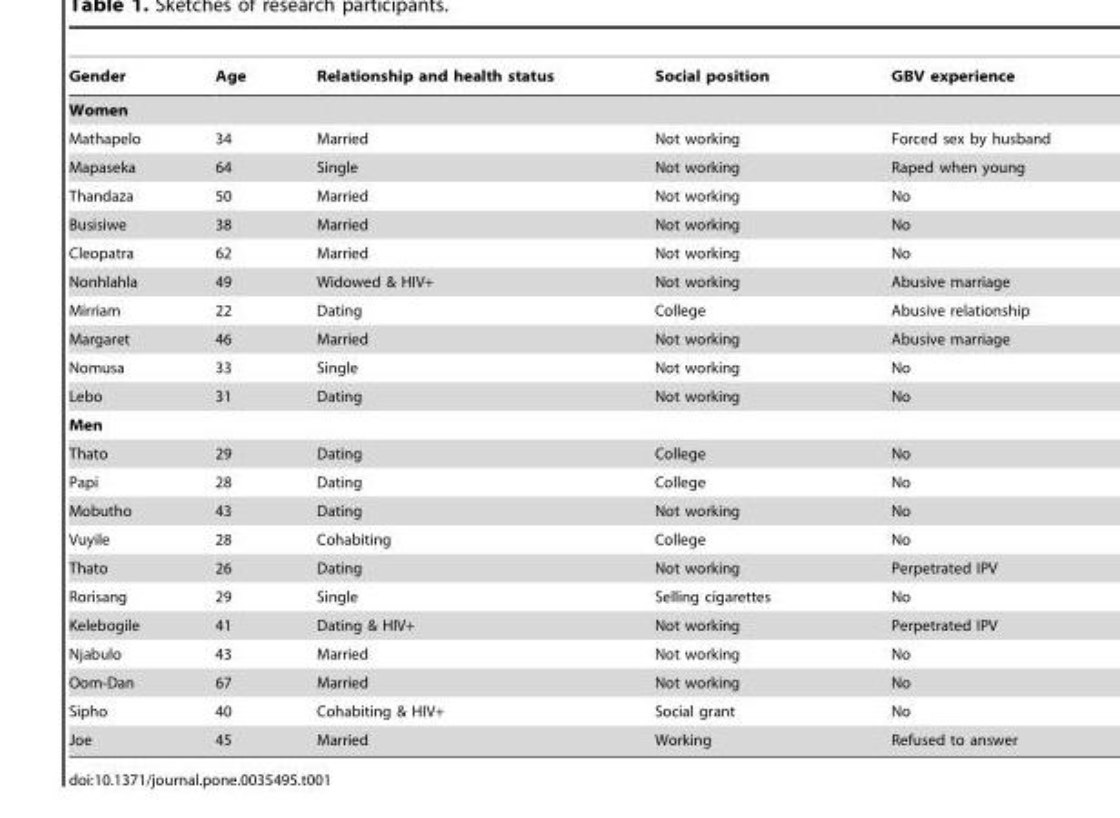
<table><thead><tr><td>Gender</td><td>Age</td><td>Relationship and health status</td><td>Social position</td><td>GBV experience</td></tr></thead><tbody><tr><td colspan="5">Women</td></tr><tr><td>Mathapelo</td><td>34</td><td>Married</td><td>Not working</td><td>Forced sex by husband</td></tr><tr><td>Mapaseka</td><td>64</td><td>Single</td><td>Not working</td><td>Raped when young</td></tr><tr><td>Thandaza</td><td>50</td><td>Married</td><td>Not working</td><td>No</td></tr><tr><td>Busisiwe</td><td>38</td><td>Married</td><td>Not working</td><td>No</td></tr><tr><td>Cleopatra</td><td>62</td><td>Married</td><td>Not working</td><td>No</td></tr><tr><td>Nonhlahla</td><td>49</td><td>Widowed &amp; HIV+</td><td>Not working</td><td>Abusive marriage</td></tr><tr><td>Mirriam</td><td>22</td><td>Dating</td><td>College</td><td>Abusive relationship</td></tr><tr><td>Margaret</td><td>46</td><td>Married</td><td>Not working</td><td>Abusive marriage</td></tr><tr><td>Nomusa</td><td>33</td><td>Single</td><td>Not working</td><td>No</td></tr><tr><td>Lebo</td><td>31</td><td>Dating</td><td>Not working</td><td>No</td></tr><tr><td colspan="5">Men</td></tr><tr><td>Thato</td><td>29</td><td>Dating</td><td>College</td><td>No</td></tr><tr><td>Papi</td><td>28</td><td>Dating</td><td>College</td><td>No</td></tr><tr><td>Mobutho</td><td>43</td><td>Dating</td><td>Not working</td><td>No</td></tr><tr><td>Vuyile</td><td>28</td><td>Cohabiting</td><td>College</td><td>No</td></tr><tr><td>Thato</td><td>26</td><td>Dating</td><td>Not working</td><td>Perpetrated IPV</td></tr><tr><td>Rorisang</td><td>29</td><td>Single</td><td>Selling cigarettes</td><td>No</td></tr><tr><td>Kelebogile</td><td>41</td><td>Dating &amp; HIV+</td><td>Not working</td><td>Perpetrated IPV</td></tr><tr><td>Njabulo</td><td>43</td><td>Married</td><td>Not working</td><td>No</td></tr><tr><td>Oom-Dan</td><td>67</td><td>Married</td><td>Not working</td><td>No</td></tr><tr><td>Sipho</td><td>40</td><td>Cohabiting &amp; HIV+</td><td>Social grant</td><td>No</td></tr><tr><td>Joe</td><td>45</td><td>Married</td><td>Working</td><td>Refused to answer</td></tr></tbody></table>